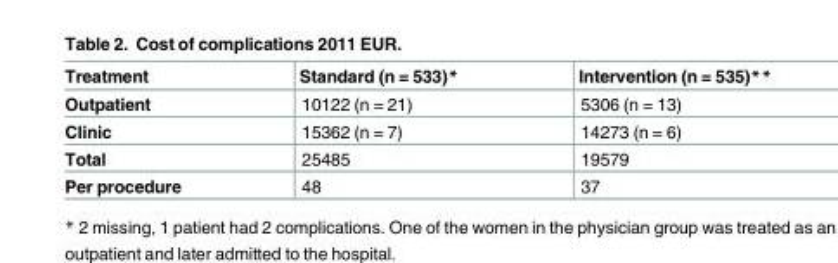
<table><thead><tr><td>Treatment</td><td>Standard (n = 533)*</td><td>Intervention (n = 535)**</td></tr></thead><tbody><tr><td>Outpatient</td><td>10122 (n = 21)</td><td>5306 (n = 13)</td></tr><tr><td>Clinic</td><td>15362 (n = 7)</td><td>14273 (n = 6)</td></tr><tr><td>Total</td><td>25485</td><td>19579</td></tr><tr><td>Per procedure</td><td>48</td><td>37</td></tr></tbody></table>